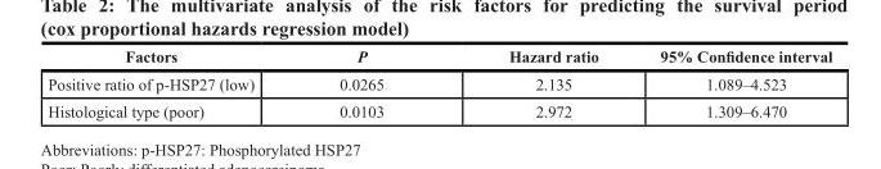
<table><thead><tr><td>Factors</td><td>P</td><td>Hazard ratio</td><td>95% Confidence interval</td></tr></thead><tbody><tr><td>Positive ratio of p-HSP27 (low)</td><td>0.0265</td><td>2.135</td><td>1.089–4.523</td></tr><tr><td>Histological type (poor)</td><td>0.0103</td><td>2.972</td><td>1.309–6.470</td></tr></tbody></table>